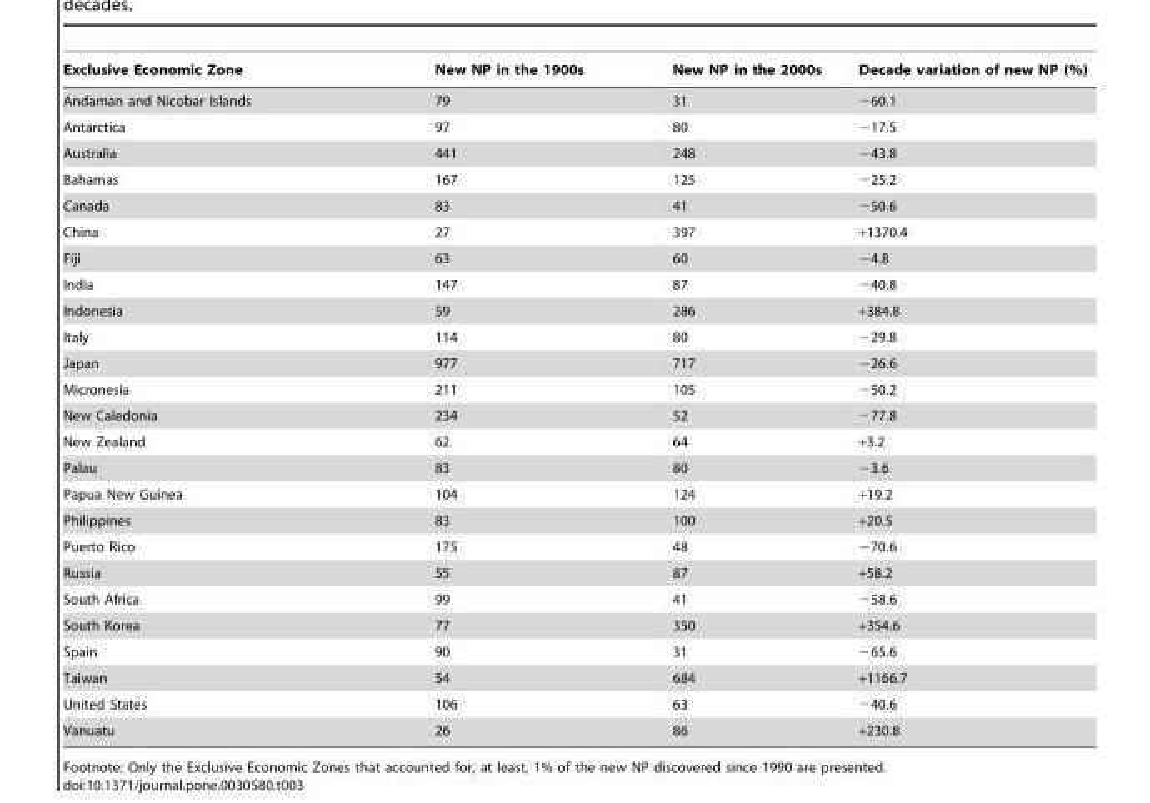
<table><thead><tr><td>Exclusive Economic Zone</td><td>New NP in the 1900s</td><td>New NP in the 2000s</td><td>Decade variation of new NP (%)</td></tr></thead><tbody><tr><td>Andaman and Nicobar Islands</td><td>79</td><td>31</td><td>−60.1</td></tr><tr><td>Antarctica</td><td>97</td><td>80</td><td>−17.5</td></tr><tr><td>Australia</td><td>441</td><td>248</td><td>−43.8</td></tr><tr><td>Bahamas</td><td>167</td><td>125</td><td>−25.2</td></tr><tr><td>Canada</td><td>83</td><td>41</td><td>−50.6</td></tr><tr><td>China</td><td>27</td><td>397</td><td>+1370.4</td></tr><tr><td>Fiji</td><td>63</td><td>60</td><td>−4.8</td></tr><tr><td>India</td><td>147</td><td>87</td><td>−40.8</td></tr><tr><td>Indonesia</td><td>59</td><td>286</td><td>+384.8</td></tr><tr><td>Italy</td><td>114</td><td>80</td><td>−29.8</td></tr><tr><td>Japan</td><td>977</td><td>717</td><td>−26.6</td></tr><tr><td>Micronesia</td><td>211</td><td>105</td><td>−50.2</td></tr><tr><td>New Caledonia</td><td>234</td><td>52</td><td>−77.8</td></tr><tr><td>New Zealand</td><td>62</td><td>64</td><td>+3.2</td></tr><tr><td>Palau</td><td>83</td><td>80</td><td>−3.6</td></tr><tr><td>Papua New Guinea</td><td>104</td><td>124</td><td>+19.2</td></tr><tr><td>Philippines</td><td>83</td><td>100</td><td>+20.5</td></tr><tr><td>Puerto Rico</td><td>175</td><td>48</td><td>−70.6</td></tr><tr><td>Russia</td><td>55</td><td>87</td><td>+58.2</td></tr><tr><td>South Africa</td><td>99</td><td>41</td><td>−58.6</td></tr><tr><td>South Korea</td><td>77</td><td>350</td><td>+354.6</td></tr><tr><td>Spain</td><td>90</td><td>31</td><td>−65.6</td></tr><tr><td>Taiwan</td><td>54</td><td>684</td><td>+1166.7</td></tr><tr><td>United States</td><td>106</td><td>63</td><td>−40.6</td></tr><tr><td>Vanuatu</td><td>26</td><td>86</td><td>+230.8</td></tr></tbody></table>